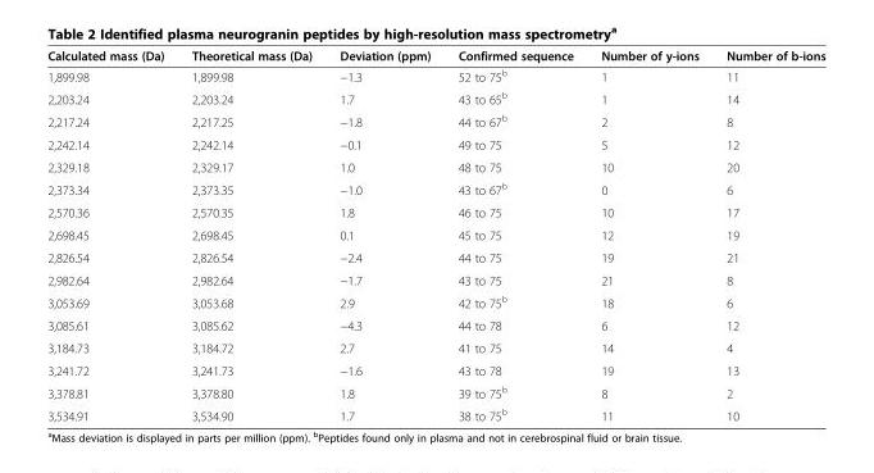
<table><thead><tr><td>Calculated mass (Da)</td><td>Theoretical mass (Da)</td><td>Deviation (ppm)</td><td>Confirmed sequence</td><td>Number of y-ions</td><td>Number of b-ions</td></tr></thead><tbody><tr><td>1,899.98</td><td>1,899.98</td><td>−1.3</td><td>52 to 75<sup>b</sup></td><td>1</td><td>11</td></tr><tr><td>2,203.24</td><td>2,203.24</td><td>1.7</td><td>43 to 65<sup>b</sup></td><td>1</td><td>14</td></tr><tr><td>2,217.24</td><td>2,217.25</td><td>−1.8</td><td>44 to 67<sup>b</sup></td><td>2</td><td>8</td></tr><tr><td>2,242.14</td><td>2,242.14</td><td>−0.1</td><td>49 to 75</td><td>5</td><td>12</td></tr><tr><td>2,329.18</td><td>2,329.17</td><td>1.0</td><td>48 to 75</td><td>10</td><td>20</td></tr><tr><td>2,373.34</td><td>2,373.35</td><td>−1.0</td><td>43 to 67<sup>b</sup></td><td>0</td><td>6</td></tr><tr><td>2,570.36</td><td>2,570.35</td><td>1.8</td><td>46 to 75</td><td>10</td><td>17</td></tr><tr><td>2,698.45</td><td>2,698.45</td><td>0.1</td><td>45 to 75</td><td>12</td><td>19</td></tr><tr><td>2,826.54</td><td>2,826.54</td><td>−2.4</td><td>44 to 75</td><td>19</td><td>21</td></tr><tr><td>2,982.64</td><td>2,982.64</td><td>−1.7</td><td>43 to 75</td><td>21</td><td>8</td></tr><tr><td>3,053.69</td><td>3,053.68</td><td>2.9</td><td>42 to 75<sup>b</sup></td><td>18</td><td>6</td></tr><tr><td>3,085.61</td><td>3,085.62</td><td>−4.3</td><td>44 to 78</td><td>6</td><td>12</td></tr><tr><td>3,184.73</td><td>3,184.72</td><td>2.7</td><td>41 to 75</td><td>14</td><td>4</td></tr><tr><td>3,241.72</td><td>3,241.73</td><td>−1.6</td><td>43 to 78</td><td>19</td><td>13</td></tr><tr><td>3,378.81</td><td>3,378.80</td><td>1.8</td><td>39 to 75<sup>b</sup></td><td>8</td><td>2</td></tr><tr><td>3,534.91</td><td>3,534.90</td><td>1.7</td><td>38 to 75<sup>b</sup></td><td>11</td><td>10</td></tr></tbody></table>